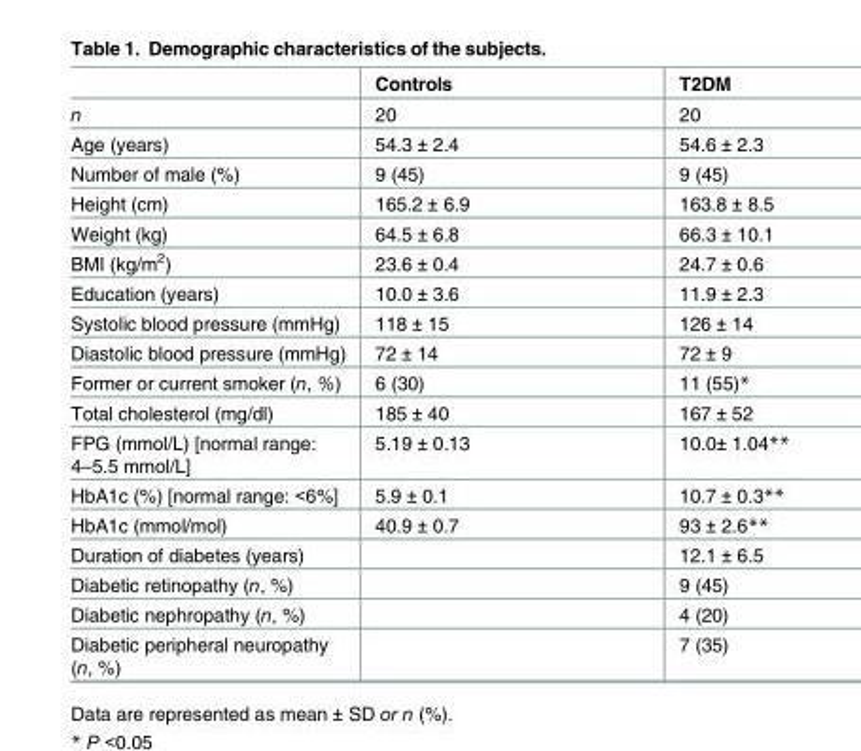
<table><thead><tr><td></td><td>Controls</td><td>T2DM</td></tr></thead><tbody><tr><td>n</td><td>20</td><td>20</td></tr><tr><td>Age (years)</td><td>54.3 ± 2.4</td><td>54.6 ± 2.3</td></tr><tr><td>Number of male (%)</td><td>9 (45)</td><td>9 (45)</td></tr><tr><td>Height (cm)</td><td>165.2 ± 6.9</td><td>163.8 ± 8.5</td></tr><tr><td>Weight (kg)</td><td>64.5 ± 6.8</td><td>66.3 ± 10.1</td></tr><tr><td>BMI (kg/m<sup>2</sup>)</td><td>23.6 ± 0.4</td><td>24.7 ± 0.6</td></tr><tr><td>Education (years)</td><td>10.0 ± 3.6</td><td>11.9 ± 2.3</td></tr><tr><td>Systolic blood pressure (mmHg)</td><td>118 ± 15</td><td>126 ± 14</td></tr><tr><td>Diastolic blood pressure (mmHg)</td><td>72 ± 14</td><td>72 ± 9</td></tr><tr><td>Former or current smoker (n, %)</td><td>6 (30)</td><td>11 (55)*</td></tr><tr><td>Total cholesterol (mg/dl)</td><td>185 ± 40</td><td>167 ± 52</td></tr><tr><td>FPG (mmol/L) [normal range: 4–5.5 mmol/L]</td><td>5.19 ± 0.13</td><td>10.0± 1.04**</td></tr><tr><td>HbA1c (%) [normal range: &lt;6%]</td><td>5.9 ± 0.1</td><td>10.7 ± 0.3**</td></tr><tr><td>HbA1c (mmol/mol)</td><td>40.9 ± 0.7</td><td>93 ± 2.6**</td></tr><tr><td>Duration of diabetes (years)</td><td></td><td>12.1 ± 6.5</td></tr><tr><td>Diabetic retinopathy (n, %)</td><td></td><td>9 (45)</td></tr><tr><td>Diabetic nephropathy (n, %)</td><td></td><td>4 (20)</td></tr><tr><td>Diabetic peripheral neuropathy (n, %)</td><td></td><td>7 (35)</td></tr></tbody></table>